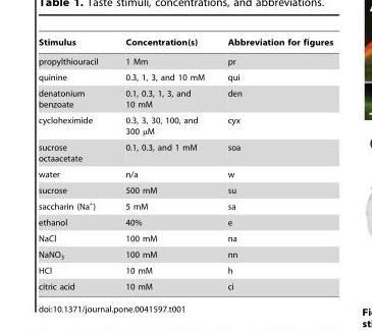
<table><thead><tr><td>Stimulus</td><td>Concentration(s)</td><td>Abbreviation for figures</td></tr></thead><tbody><tr><td>propylthiouracil</td><td>1 Mm</td><td>pr</td></tr><tr><td>quinine</td><td>0.3, 1, 3, and 10 mM</td><td>qui</td></tr><tr><td>denatonium benzoate</td><td>0.1, 0.3, 1, 3, and 10 mM</td><td>den</td></tr><tr><td>cycloheximide</td><td>0.3, 3, 30, 100, and 300 μM</td><td>cyx</td></tr><tr><td>sucrose octaacetate</td><td>0.1, 0.3, and 1 mM</td><td>soa</td></tr><tr><td>water</td><td>n/a</td><td>w</td></tr><tr><td>sucrose</td><td>500 mM</td><td>su</td></tr><tr><td>saccharin (Na<sup>+</sup>)</td><td>5 mM</td><td>sa</td></tr><tr><td>ethanol</td><td>40%</td><td>e</td></tr><tr><td>NaCl</td><td>100 mM</td><td>na</td></tr><tr><td>NaNO<sub>3</sub></td><td>100 mM</td><td>nn</td></tr><tr><td>HCl</td><td>10 mM</td><td>h</td></tr><tr><td>citric acid</td><td>10 mM</td><td>ci</td></tr></tbody></table>